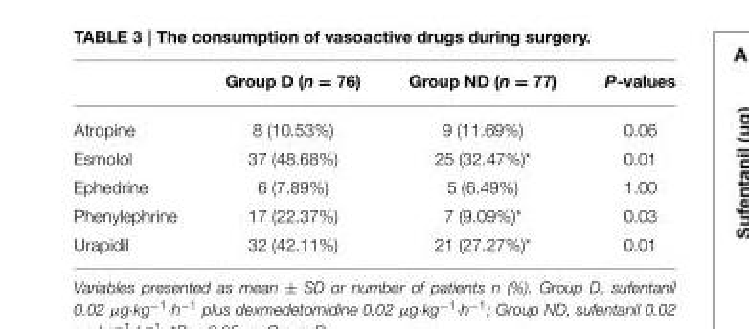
<table><thead><tr><td></td><td>Group D (n = 76)</td><td>Group ND (n = 77)</td><td>P-values</td></tr></thead><tbody><tr><td>Atropine</td><td>8 (10.53%)</td><td>9 (11.69%)</td><td>0.06</td></tr><tr><td>Esmolol</td><td>37 (48.68%)</td><td>25 (32.47%)*</td><td>0.01</td></tr><tr><td>Ephedrine</td><td>6 (7.89%)</td><td>5 (6.49%)</td><td>1.00</td></tr><tr><td>Phenylephrine</td><td>17 (22.37%)</td><td>7 (9.09%)*</td><td>0.03</td></tr><tr><td>Urapidil</td><td>32 (42.11%)</td><td>21 (27.27%)*</td><td>0.01</td></tr></tbody></table>